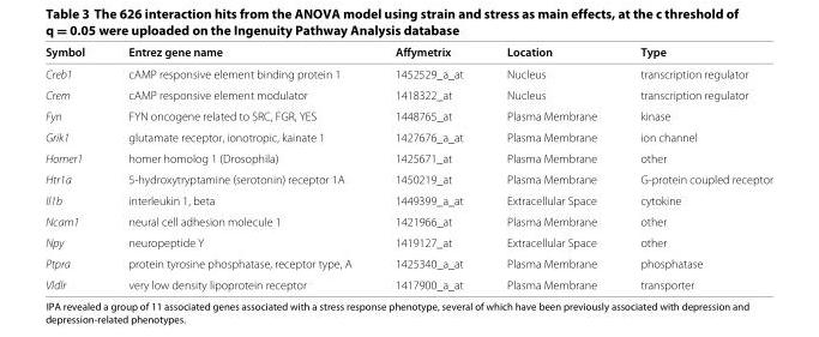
<table><thead><tr><td>Symbol</td><td>Entrez gene name</td><td>Affymetrix</td><td>Location</td><td>Type</td></tr></thead><tbody><tr><td>Creb1</td><td>cAMP responsive element binding protein 1</td><td>1452529_a_at</td><td>Nucleus</td><td>transcription regulator</td></tr><tr><td>Crem</td><td>cAMP responsive element modulator</td><td>1418322_at</td><td>Nucleus</td><td>transcription regulator</td></tr><tr><td>Fyn</td><td>FYN oncogene related to SRC, FGR, YES</td><td>1448765_at</td><td>Plasma Membrane</td><td>kinase</td></tr><tr><td>Grik1</td><td>glutamate receptor, ionotropic, kainate 1</td><td>1427676_a_at</td><td>Plasma Membrane</td><td>ion channel</td></tr><tr><td>Homer1</td><td>homer homolog 1 (Drosophila)</td><td>1425671_at</td><td>Plasma Membrane</td><td>other</td></tr><tr><td>Htr1a</td><td>5-hydroxytryptamine (serotonin) receptor 1A</td><td>1450219_at</td><td>Plasma Membrane</td><td>G-protein coupled receptor</td></tr><tr><td>Il1b</td><td>interleukin 1, beta</td><td>1449399_a_at</td><td>Extracellular Space</td><td>cytokine</td></tr><tr><td>Ncam1</td><td>neural cell adhesion molecule 1</td><td>1421966_at</td><td>Plasma Membrane</td><td>other</td></tr><tr><td>Npy</td><td>neuropeptide Y</td><td>1419127_at</td><td>Extracellular Space</td><td>other</td></tr><tr><td>Ptpra</td><td>protein tyrosine phosphatase, receptor type, A</td><td>1425340_a_at</td><td>Plasma Membrane</td><td>phosphatase</td></tr><tr><td>Vldlr</td><td>very low density lipoprotein receptor</td><td>1417900_a_at</td><td>Plasma Membrane</td><td>transporter</td></tr></tbody></table>